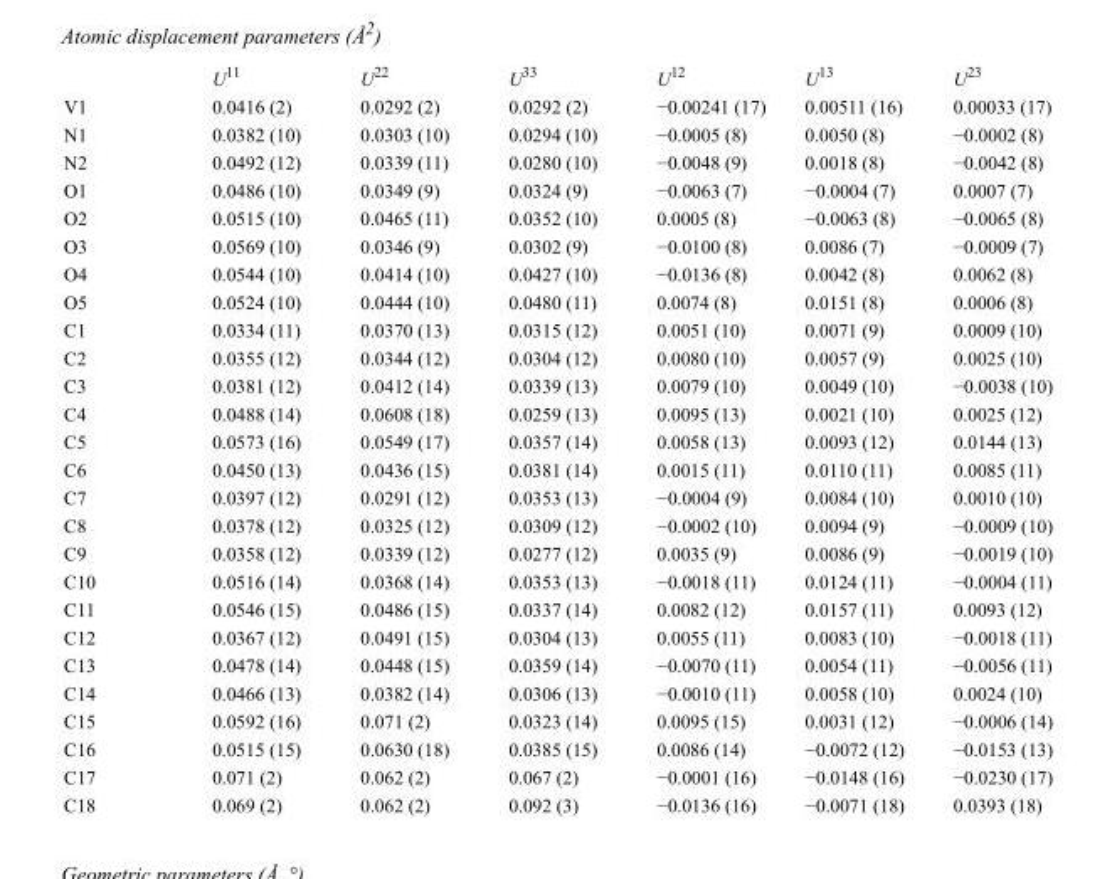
<table><thead><tr><td></td><td>U<sup>11</sup></td><td>U<sup>22</sup></td><td>U<sup>33</sup></td><td>U<sup>12</sup></td><td>U<sup>13</sup></td><td>U<sup>23</sup></td></tr></thead><tbody><tr><td>V1</td><td>0.0416 (2)</td><td>0.0292 (2)</td><td>0.0292 (2)</td><td>−0.00241 (17)</td><td>0.00511 (16)</td><td>0.00033 (17)</td></tr><tr><td>N1</td><td>0.0382 (10)</td><td>0.0303 (10)</td><td>0.0294 (10)</td><td>−0.0005 (8)</td><td>0.0050 (8)</td><td>−0.0002 (8)</td></tr><tr><td>N2</td><td>0.0492 (12)</td><td>0.0339 (11)</td><td>0.0280 (10)</td><td>−0.0048 (9)</td><td>0.0018 (8)</td><td>−0.0042 (8)</td></tr><tr><td>O1</td><td>0.0486 (10)</td><td>0.0349 (9)</td><td>0.0324 (9)</td><td>−0.0063 (7)</td><td>−0.0004 (7)</td><td>0.0007 (7)</td></tr><tr><td>O2</td><td>0.0515 (10)</td><td>0.0465 (11)</td><td>0.0352 (10)</td><td>0.0005 (8)</td><td>−0.0063 (8)</td><td>−0.0065 (8)</td></tr><tr><td>O3</td><td>0.0569 (10)</td><td>0.0346 (9)</td><td>0.0302 (9)</td><td>−0.0100 (8)</td><td>0.0086 (7)</td><td>−0.0009 (7)</td></tr><tr><td>O4</td><td>0.0544 (10)</td><td>0.0414 (10)</td><td>0.0427 (10)</td><td>−0.0136 (8)</td><td>0.0042 (8)</td><td>0.0062 (8)</td></tr><tr><td>O5</td><td>0.0524 (10)</td><td>0.0444 (10)</td><td>0.0480 (11)</td><td>0.0074 (8)</td><td>0.0151 (8)</td><td>0.0006 (8)</td></tr><tr><td>C1</td><td>0.0334 (11)</td><td>0.0370 (13)</td><td>0.0315 (12)</td><td>0.0051 (10)</td><td>0.0071 (9)</td><td>0.0009 (10)</td></tr><tr><td>C2</td><td>0.0355 (12)</td><td>0.0344 (12)</td><td>0.0304 (12)</td><td>0.0080 (10)</td><td>0.0057 (9)</td><td>0.0025 (10)</td></tr><tr><td>C3</td><td>0.0381 (12)</td><td>0.0412 (14)</td><td>0.0339 (13)</td><td>0.0079 (10)</td><td>0.0049 (10)</td><td>−0.0038 (10)</td></tr><tr><td>C4</td><td>0.0488 (14)</td><td>0.0608 (18)</td><td>0.0259 (13)</td><td>0.0095 (13)</td><td>0.0021 (10)</td><td>0.0025 (12)</td></tr><tr><td>C5</td><td>0.0573 (16)</td><td>0.0549 (17)</td><td>0.0357 (14)</td><td>0.0058 (13)</td><td>0.0093 (12)</td><td>0.0144 (13)</td></tr><tr><td>C6</td><td>0.0450 (13)</td><td>0.0436 (15)</td><td>0.0381 (14)</td><td>0.0015 (11)</td><td>0.0110 (11)</td><td>0.0085 (11)</td></tr><tr><td>C7</td><td>0.0397 (12)</td><td>0.0291 (12)</td><td>0.0353 (13)</td><td>−0.0004 (9)</td><td>0.0084 (10)</td><td>0.0010 (10)</td></tr><tr><td>C8</td><td>0.0378 (12)</td><td>0.0325 (12)</td><td>0.0309 (12)</td><td>−0.0002 (10)</td><td>0.0094 (9)</td><td>−0.0009 (10)</td></tr><tr><td>C9</td><td>0.0358 (12)</td><td>0.0339 (12)</td><td>0.0277 (12)</td><td>0.0035 (9)</td><td>0.0086 (9)</td><td>−0.0019 (10)</td></tr><tr><td>C10</td><td>0.0516 (14)</td><td>0.0368 (14)</td><td>0.0353 (13)</td><td>−0.0018 (11)</td><td>0.0124 (11)</td><td>−0.0004 (11)</td></tr><tr><td>C11</td><td>0.0546 (15)</td><td>0.0486 (15)</td><td>0.0337 (14)</td><td>0.0082 (12)</td><td>0.0157 (11)</td><td>0.0093 (12)</td></tr><tr><td>C12</td><td>0.0367 (12)</td><td>0.0491 (15)</td><td>0.0304 (13)</td><td>0.0055 (11)</td><td>0.0083 (10)</td><td>−0.0018 (11)</td></tr><tr><td>C13</td><td>0.0478 (14)</td><td>0.0448 (15)</td><td>0.0359 (14)</td><td>−0.0070 (11)</td><td>0.0054 (11)</td><td>−0.0056 (11)</td></tr><tr><td>C14</td><td>0.0466 (13)</td><td>0.0382 (14)</td><td>0.0306 (13)</td><td>−0.0010 (11)</td><td>0.0058 (10)</td><td>0.0024 (10)</td></tr><tr><td>C15</td><td>0.0592 (16)</td><td>0.071 (2)</td><td>0.0323 (14)</td><td>0.0095 (15)</td><td>0.0031 (12)</td><td>−0.0006 (14)</td></tr><tr><td>C16</td><td>0.0515 (15)</td><td>0.0630 (18)</td><td>0.0385 (15)</td><td>0.0086 (14)</td><td>−0.0072 (12)</td><td>−0.0153 (13)</td></tr><tr><td>C17</td><td>0.071 (2)</td><td>0.062 (2)</td><td>0.067 (2)</td><td>−0.0001 (16)</td><td>−0.0148 (16)</td><td>−0.0230 (17)</td></tr><tr><td>C18</td><td>0.069 (2)</td><td>0.062 (2)</td><td>0.092 (3)</td><td>−0.0136 (16)</td><td>−0.0071 (18)</td><td>0.0393 (18)</td></tr></tbody></table>